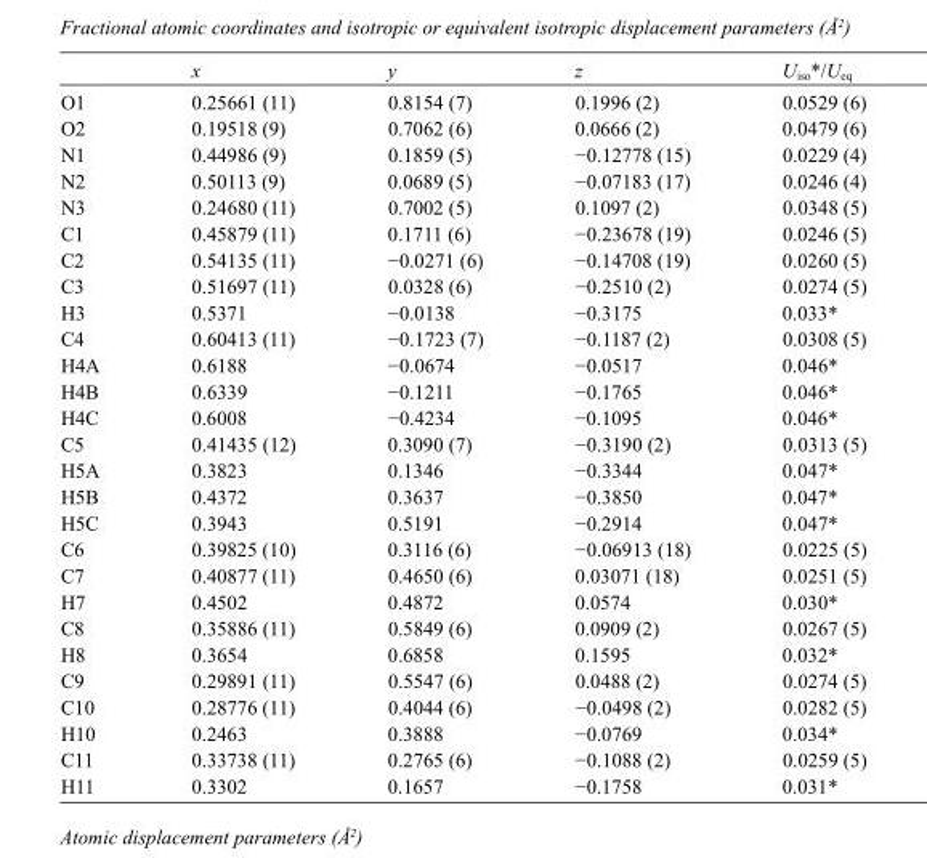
<table><thead><tr><td></td><td>x</td><td>y</td><td>z</td><td>U<sub>iso</sub>*/U<sub>eq</sub></td></tr></thead><tbody><tr><td>O1</td><td>0.25661 (11)</td><td>0.8154 (7)</td><td>0.1996 (2)</td><td>0.0529 (6)</td></tr><tr><td>O2</td><td>0.19518 (9)</td><td>0.7062 (6)</td><td>0.0666 (2)</td><td>0.0479 (6)</td></tr><tr><td>N1</td><td>0.44986 (9)</td><td>0.1859 (5)</td><td>−0.12778 (15)</td><td>0.0229 (4)</td></tr><tr><td>N2</td><td>0.50113 (9)</td><td>0.0689 (5)</td><td>−0.07183 (17)</td><td>0.0246 (4)</td></tr><tr><td>N3</td><td>0.24680 (11)</td><td>0.7002 (5)</td><td>0.1097 (2)</td><td>0.0348 (5)</td></tr><tr><td>C1</td><td>0.45879 (11)</td><td>0.1711 (6)</td><td>−0.23678 (19)</td><td>0.0246 (5)</td></tr><tr><td>C2</td><td>0.54135 (11)</td><td>−0.0271 (6)</td><td>−0.14708 (19)</td><td>0.0260 (5)</td></tr><tr><td>C3</td><td>0.51697 (11)</td><td>0.0328 (6)</td><td>−0.2510 (2)</td><td>0.0274 (5)</td></tr><tr><td>H3</td><td>0.5371</td><td>−0.0138</td><td>−0.3175</td><td>0.033*</td></tr><tr><td>C4</td><td>0.60413 (11)</td><td>−0.1723 (7)</td><td>−0.1187 (2)</td><td>0.0308 (5)</td></tr><tr><td>H4A</td><td>0.6188</td><td>−0.0674</td><td>−0.0517</td><td>0.046*</td></tr><tr><td>H4B</td><td>0.6339</td><td>−0.1211</td><td>−0.1765</td><td>0.046*</td></tr><tr><td>H4C</td><td>0.6008</td><td>−0.4234</td><td>−0.1095</td><td>0.046*</td></tr><tr><td>C5</td><td>0.41435 (12)</td><td>0.3090 (7)</td><td>−0.3190 (2)</td><td>0.0313 (5)</td></tr><tr><td>H5A</td><td>0.3823</td><td>0.1346</td><td>−0.3344</td><td>0.047*</td></tr><tr><td>H5B</td><td>0.4372</td><td>0.3637</td><td>−0.3850</td><td>0.047*</td></tr><tr><td>H5C</td><td>0.3943</td><td>0.5191</td><td>−0.2914</td><td>0.047*</td></tr><tr><td>C6</td><td>0.39825 (10)</td><td>0.3116 (6)</td><td>−0.06913 (18)</td><td>0.0225 (5)</td></tr><tr><td>C7</td><td>0.40877 (11)</td><td>0.4650 (6)</td><td>0.03071 (18)</td><td>0.0251 (5)</td></tr><tr><td>H7</td><td>0.4502</td><td>0.4872</td><td>0.0574</td><td>0.030*</td></tr><tr><td>C8</td><td>0.35886 (11)</td><td>0.5849 (6)</td><td>0.0909 (2)</td><td>0.0267 (5)</td></tr><tr><td>H8</td><td>0.3654</td><td>0.6858</td><td>0.1595</td><td>0.032*</td></tr><tr><td>C9</td><td>0.29891 (11)</td><td>0.5547 (6)</td><td>0.0488 (2)</td><td>0.0274 (5)</td></tr><tr><td>C10</td><td>0.28776 (11)</td><td>0.4044 (6)</td><td>−0.0498 (2)</td><td>0.0282 (5)</td></tr><tr><td>H10</td><td>0.2463</td><td>0.3888</td><td>−0.0769</td><td>0.034*</td></tr><tr><td>C11</td><td>0.33738 (11)</td><td>0.2765 (6)</td><td>−0.1088 (2)</td><td>0.0259 (5)</td></tr><tr><td>H11</td><td>0.3302</td><td>0.1657</td><td>−0.1758</td><td>0.031*</td></tr></tbody></table>